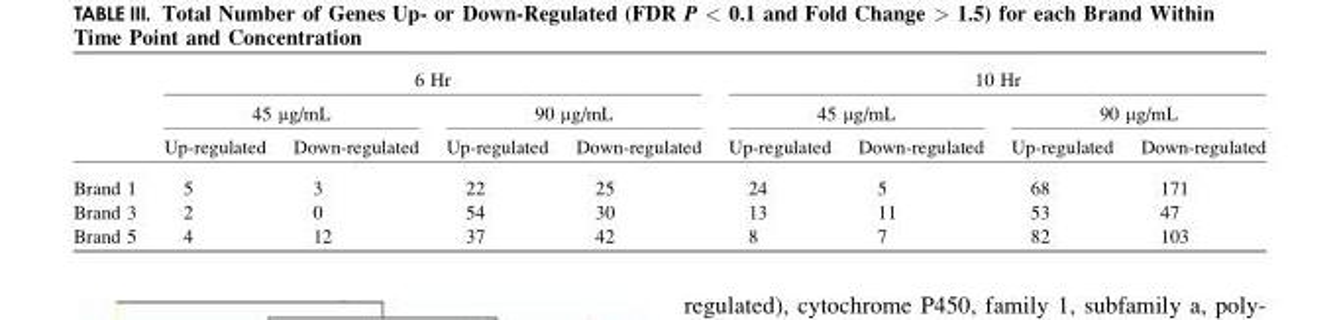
<table><thead><tr><td rowspan="3"></td><td colspan="4">6 Hr</td><td colspan="4">10 Hr</td></tr><tr><td colspan="2">45 μg/mL</td><td colspan="2">90 μg/mL</td><td colspan="2">45 μg/mL</td><td colspan="2">90 μg/mL</td></tr><tr><td>Up-regulated</td><td>Down-regulated</td><td>Up-regulated</td><td>Down-regulated</td><td>Up-regulated</td><td>Down-regulated</td><td>Up-regulated</td><td>Down-regulated</td></tr></thead><tbody><tr><td>Brand 1</td><td>5</td><td>3</td><td>22</td><td>25</td><td>24</td><td>5</td><td>68</td><td>171</td></tr><tr><td>Brand 3</td><td>2</td><td>0</td><td>54</td><td>30</td><td>13</td><td>11</td><td>53</td><td>47</td></tr><tr><td>Brand 5</td><td>4</td><td>12</td><td>37</td><td>42</td><td>8</td><td>7</td><td>82</td><td>103</td></tr></tbody></table>